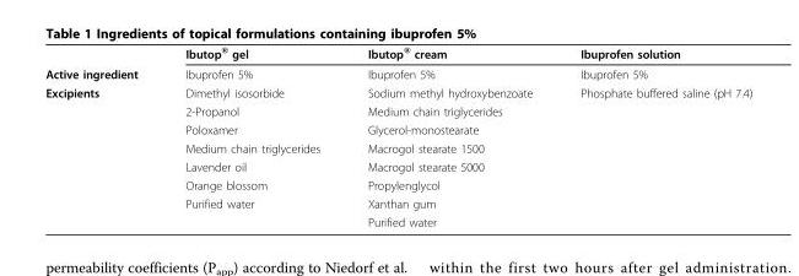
<table><thead><tr><td></td><td>Ibutop<sup>®</sup> gel</td><td>Ibutop<sup>®</sup> cream</td><td>Ibuprofen solution</td></tr></thead><tbody><tr><td>Active ingredient</td><td>Ibuprofen 5%</td><td>Ibuprofen 5%</td><td>Ibuprofen 5%</td></tr><tr><td rowspan="8">Excipients</td><td>Dimethyl isosorbide</td><td>Sodium methyl hydroxybenzoate</td><td>Phosphate buffered saline (pH 7.4)</td></tr><tr><td>2-Propanol</td><td>Medium chain triglycerides</td><td></td></tr><tr><td>Poloxamer</td><td>Glycerol-monostearate</td><td></td></tr><tr><td>Medium chain triglycerides</td><td>Macrogol stearate 1500</td><td></td></tr><tr><td>Lavender oil</td><td>Macrogol stearate 5000</td><td></td></tr><tr><td>Orange blossom</td><td>Propylenglycol</td><td></td></tr><tr><td>Purified water</td><td>Xanthan gum</td><td></td></tr><tr><td></td><td>Purified water</td><td></td></tr></tbody></table>